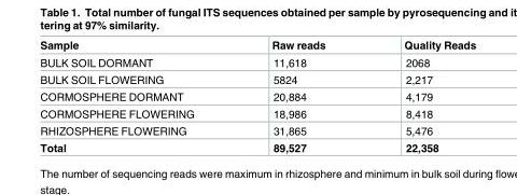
<table><thead><tr><td>Sample</td><td>Raw reads</td><td>Quality Reads</td></tr></thead><tbody><tr><td>BULK SOIL DORMANT</td><td>11,618</td><td>2068</td></tr><tr><td>BULK SOIL FLOWERING</td><td>5824</td><td>2,217</td></tr><tr><td>CORMOSPHERE DORMANT</td><td>20,884</td><td>4,179</td></tr><tr><td>CORMOSPHERE FLOWERING</td><td>18,986</td><td>8,418</td></tr><tr><td>RHIZOSPHERE FLOWERING</td><td>31,865</td><td>5,476</td></tr><tr><td>Total</td><td>89,527</td><td>22,358</td></tr></tbody></table>